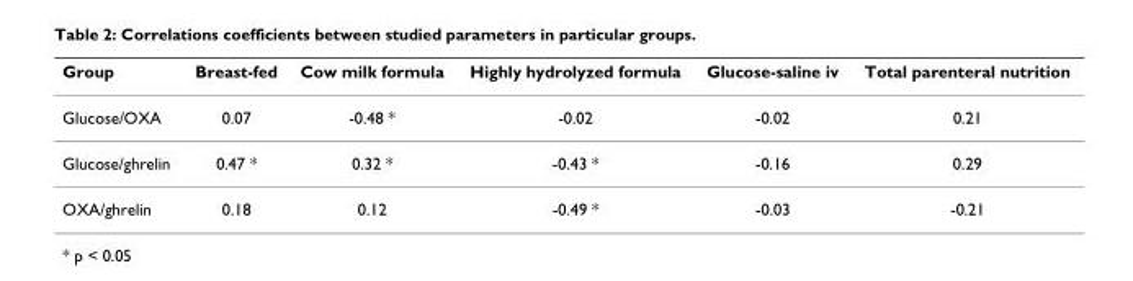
<table><thead><tr><td>Group</td><td>Breast-fed</td><td>Cow milk formula</td><td>Highly hydrolyzed formula</td><td>Glucose-saline iv</td><td>Total parenteral nutrition</td></tr></thead><tbody><tr><td>Glucose/OXA</td><td>0.07</td><td>-0.48 *</td><td>-0.02</td><td>-0.02</td><td>0.21</td></tr><tr><td>Glucose/ghrelin</td><td>0.47 *</td><td>0.32 *</td><td>-0.43 *</td><td>-0.16</td><td>0.29</td></tr><tr><td>OXA/ghrelin</td><td>0.18</td><td>0.12</td><td>-0.49 *</td><td>-0.03</td><td>-0.21</td></tr></tbody></table>